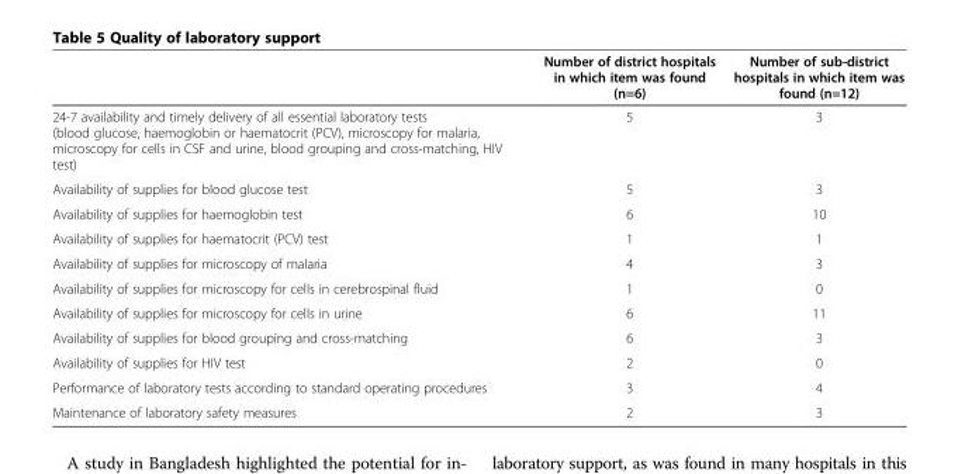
<table><thead><tr><td></td><td>Number of district hospitals in which item was found (n=6)</td><td>Number of sub-district hospitals in which item was found (n=12)</td></tr></thead><tbody><tr><td>24-7 availability and timely delivery of all essential laboratory tests (blood glucose, haemoglobin or haematocrit (PCV), microscopy for malaria, microscopy for cells in CSF and urine, blood grouping and cross-matching, HIV test)</td><td>5</td><td>3</td></tr><tr><td>Availability of supplies for blood glucose test</td><td>5</td><td>3</td></tr><tr><td>Availability of supplies for haemoglobin test</td><td>6</td><td>10</td></tr><tr><td>Availability of supplies for haematocrit (PCV) test</td><td>1</td><td>1</td></tr><tr><td>Availability of supplies for microscopy of malaria</td><td>4</td><td>3</td></tr><tr><td>Availability of supplies for microscopy for cells in cerebrospinal fluid</td><td>1</td><td>0</td></tr><tr><td>Availability of supplies for microscopy for cells in urine</td><td>6</td><td>11</td></tr><tr><td>Availability of supplies for blood grouping and cross-matching</td><td>6</td><td>3</td></tr><tr><td>Availability of supplies for HIV test</td><td>2</td><td>0</td></tr><tr><td>Performance of laboratory tests according to standard operating procedures</td><td>3</td><td>4</td></tr><tr><td>Maintenance of laboratory safety measures</td><td>2</td><td>3</td></tr></tbody></table>